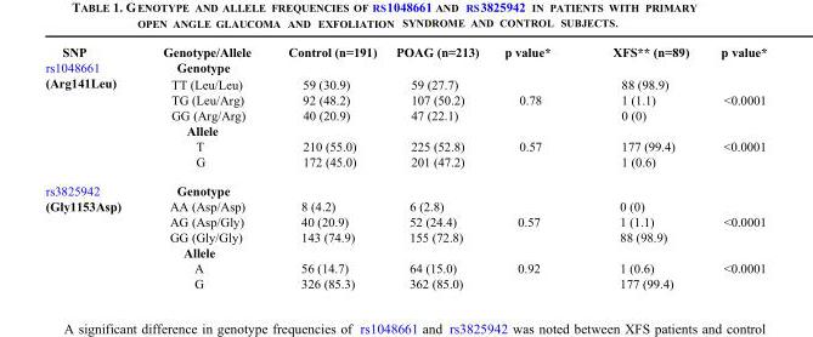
<table><tbody><tr><td>SNP</td><td>Genotype/Allele</td><td>Control (n=191)</td><td>POAG (n=213)</td><td>p value*</td><td>XFS** (n=89)</td><td>p value*</td></tr><tr><td rowspan="7">rs1048661 (Arg141Leu)</td><td>Genotype</td><td></td><td></td><td></td><td></td><td></td></tr><tr><td>TT (Leu/Leu)</td><td>59 (30.9)</td><td>59 (27.7)</td><td></td><td>88 (98.9)</td><td></td></tr><tr><td>TG (Leu/Arg)</td><td>92 (48.2)</td><td>107 (50.2)</td><td>0.78</td><td>1 (1.1)</td><td>&lt;0.0001</td></tr><tr><td>GG (Arg/Arg)</td><td>40 (20.9)</td><td>47 (22.1)</td><td></td><td>0 (0)</td><td></td></tr><tr><td>Allele</td><td></td><td></td><td></td><td></td><td></td></tr><tr><td>T</td><td>210 (55.0)</td><td>225 (52.8)</td><td>0.57</td><td>177 (99.4)</td><td>&lt;0.0001</td></tr><tr><td>G</td><td>172 (45.0)</td><td>201 (47.2)</td><td></td><td>1 (0.6)</td><td></td></tr><tr><td rowspan="7">rs3825942 (Gly1153Asp)</td><td>Genotype</td><td></td><td></td><td></td><td></td><td></td></tr><tr><td>AA (Asp/Asp)</td><td>8 (4.2)</td><td>6 (2.8)</td><td></td><td>0 (0)</td><td></td></tr><tr><td>AG (Asp/Gly)</td><td>40 (20.9)</td><td>52 (24.4)</td><td>0.57</td><td>1 (1.1)</td><td>&lt;0.0001</td></tr><tr><td>GG (Gly/Gly)</td><td>143 (74.9)</td><td>155 (72.8)</td><td></td><td>88 (98.9)</td><td></td></tr><tr><td>Allele</td><td></td><td></td><td></td><td></td><td></td></tr><tr><td>A</td><td>56 (14.7)</td><td>64 (15.0)</td><td>0.92</td><td>1 (0.6)</td><td>&lt;0.0001</td></tr><tr><td>G</td><td>326 (85.3)</td><td>362 (85.0)</td><td></td><td>177 (99.4)</td><td></td></tr></tbody></table>